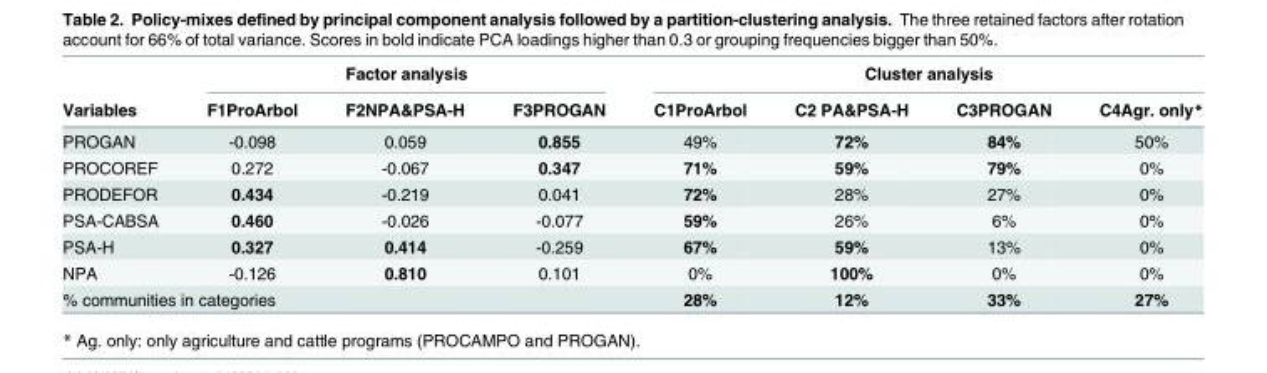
<table><thead><tr><td rowspan="2">Variables</td><td colspan="3">Factor analysis</td><td colspan="4">Cluster analysis</td></tr><tr><td>F1ProArbol</td><td>F2NPA&amp;PSA-H</td><td>F3PROGAN</td><td>C1ProArbol</td><td>C2 PA&amp;PSA-H</td><td>C3PROGAN</td><td>C4Agr. only*</td></tr></thead><tbody><tr><td>PROGAN</td><td>-0.098</td><td>0.059</td><td>0.855</td><td>49%</td><td>72%</td><td>84%</td><td>50%</td></tr><tr><td>PROCOREF</td><td>0.272</td><td>-0.067</td><td>0.347</td><td>71%</td><td>59%</td><td>79%</td><td>0%</td></tr><tr><td>PRODEFOR</td><td>0.434</td><td>-0.219</td><td>0.041</td><td>72%</td><td>28%</td><td>27%</td><td>0%</td></tr><tr><td>PSA-CABSA</td><td>0.460</td><td>-0.026</td><td>-0.077</td><td>59%</td><td>26%</td><td>6%</td><td>0%</td></tr><tr><td>PSA-H</td><td>0.327</td><td>0.414</td><td>-0.259</td><td>67%</td><td>59%</td><td>13%</td><td>0%</td></tr><tr><td>NPA</td><td>-0.126</td><td>0.810</td><td>0.101</td><td>0%</td><td>100%</td><td>0%</td><td>0%</td></tr><tr><td colspan="3">% communities in categories</td><td></td><td>28%</td><td>12%</td><td>33%</td><td>27%</td></tr></tbody></table>